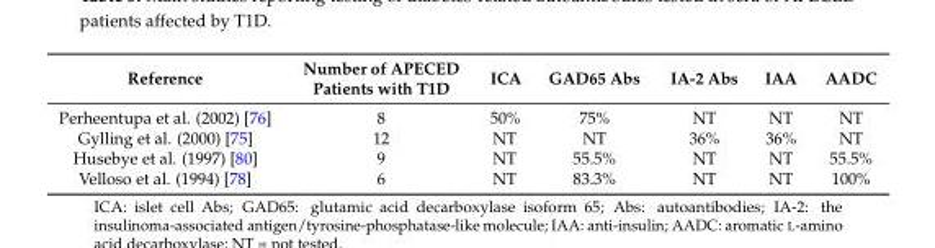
<table><thead><tr><td>Reference</td><td>Number of APECED Patients with T1D</td><td>ICA</td><td>GAD65 Abs</td><td>IA-2 Abs</td><td>IAA</td><td>AADC</td></tr></thead><tbody><tr><td>Perheentupa et al. (2002) [76]</td><td>8</td><td>50%</td><td>75%</td><td>NT</td><td>NT</td><td>NT</td></tr><tr><td>Gylling et al. (2000) [75]</td><td>12</td><td>NT</td><td>NT</td><td>36%</td><td>36%</td><td>NT</td></tr><tr><td>Husebye et al. (1997) [80]</td><td>9</td><td>NT</td><td>55.5%</td><td>NT</td><td>NT</td><td>55.5%</td></tr><tr><td>Velloso et al. (1994) [78]</td><td>6</td><td>NT</td><td>83.3%</td><td>NT</td><td>NT</td><td>100%</td></tr></tbody></table>